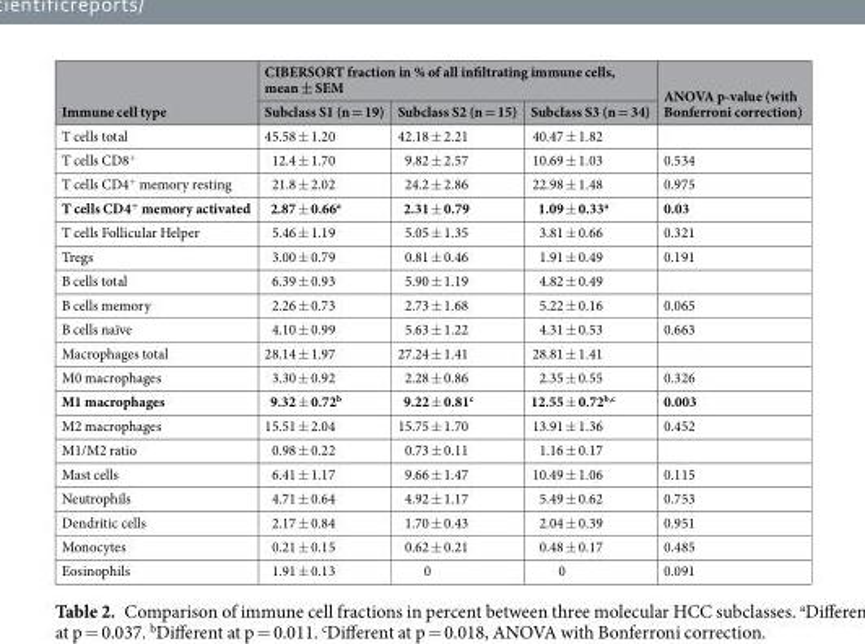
<table><thead><tr><td rowspan="2">Immune cell type</td><td colspan="3">CIBERSORT fraction in % of all infiltrating immune cells, mean ± SEM</td><td rowspan="2">ANOVA p-value (with Bonferroni correction)</td></tr><tr><td>Subclass S1 (n = 19)</td><td>Subclass S2 (n = 15)</td><td>Subclass S3 (n = 34)</td></tr></thead><tbody><tr><td>T cells total</td><td>45.58 ± 1.20</td><td>42.18 ± 2.21</td><td>40.47 ± 1.82</td><td></td></tr><tr><td>T cells CD8<sup>+</sup></td><td>12.4 ± 1.70</td><td>9.82 ± 2.57</td><td>10.69 ± 1.03</td><td>0.534</td></tr><tr><td>T cells CD4<sup>+</sup> memory resting</td><td>21.8 ± 2.02</td><td>24.2 ± 2.86</td><td>22.98 ± 1.48</td><td>0.975</td></tr><tr><td>T cells CD4<sup>+</sup> memory activated</td><td>2.87 ± 0.66<sup>a</sup></td><td>2.31 ± 0.79</td><td>1.09 ± 0.33<sup>a</sup></td><td>0.03</td></tr><tr><td>T cells Follicular Helper</td><td>5.46 ± 1.19</td><td>5.05 ± 1.35</td><td>3.81 ± 0.66</td><td>0.321</td></tr><tr><td>Tregs</td><td>3.00 ± 0.79</td><td>0.81 ± 0.46</td><td>1.91 ± 0.49</td><td>0.191</td></tr><tr><td>B cells total</td><td>6.39 ± 0.93</td><td>5.90 ± 1.19</td><td>4.82 ± 0.49</td><td></td></tr><tr><td>B cells memory</td><td>2.26 ± 0.73</td><td>2.73 ± 1.68</td><td>5.22 ± 0.16</td><td>0.065</td></tr><tr><td>B cells naïve</td><td>4.10 ± 0.99</td><td>5.63 ± 1.22</td><td>4.31 ± 0.53</td><td>0.663</td></tr><tr><td>Macrophages total</td><td>28.14 ± 1.97</td><td>27.24 ± 1.41</td><td>28.81 ± 1.41</td><td></td></tr><tr><td>M0 macrophages</td><td>3.30 ± 0.92</td><td>2.28 ± 0.86</td><td>2.35 ± 0.55</td><td>0.326</td></tr><tr><td>M1 macrophages</td><td>9.32 ± 0.72<sup>b</sup></td><td>9.22 ± 0.81<sup>c</sup></td><td>12.55 ± 0.72<sup>b,c</sup></td><td>0.003</td></tr><tr><td>M2 macrophages</td><td>15.51 ± 2.04</td><td>15.75 ± 1.70</td><td>13.91 ± 1.36</td><td>0.452</td></tr><tr><td>M1/M2 ratio</td><td>0.98 ± 0.22</td><td>0.73 ± 0.11</td><td>1.16 ± 0.17</td><td></td></tr><tr><td>Mast cells</td><td>6.41 ± 1.17</td><td>9.66 ± 1.47</td><td>10.49 ± 1.06</td><td>0.115</td></tr><tr><td>Neutrophils</td><td>4.71 ± 0.64</td><td>4.92 ± 1.17</td><td>5.49 ± 0.62</td><td>0.753</td></tr><tr><td>Dendritic cells</td><td>2.17 ± 0.84</td><td>1.70 ± 0.43</td><td>2.04 ± 0.39</td><td>0.951</td></tr><tr><td>Monocytes</td><td>0.21 ± 0.15</td><td>0.62 ± 0.21</td><td>0.48 ± 0.17</td><td>0.485</td></tr><tr><td>Eosinophils</td><td>1.91 ± 0.13</td><td>0</td><td>0</td><td>0.091</td></tr></tbody></table>